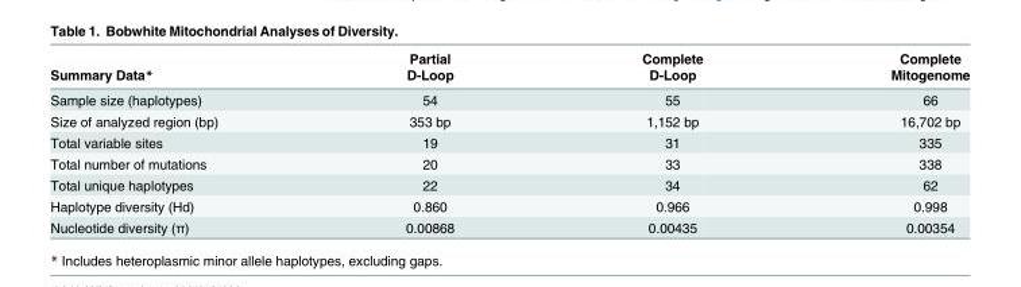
<table><thead><tr><td rowspan="2">Summary Data*</td><td rowspan="2">Partial D-Loop</td><td rowspan="2">Complete D-Loop</td><td rowspan="2">Complete Mitogenome</td></tr><tr></tr></thead><tbody><tr><td>Sample size (haplotypes)</td><td>54</td><td>55</td><td>66</td></tr><tr><td>Size of analyzed region (bp)</td><td>353 bp</td><td>1,152 bp</td><td>16,702 bp</td></tr><tr><td>Total variable sites</td><td>19</td><td>31</td><td>335</td></tr><tr><td>Total number of mutations</td><td>20</td><td>33</td><td>338</td></tr><tr><td>Total unique haplotypes</td><td>22</td><td>34</td><td>62</td></tr><tr><td>Haplotype diversity (Hd)</td><td>0.860</td><td>0.966</td><td>0.998</td></tr><tr><td>Nucleotide diversity (π)</td><td>0.00868</td><td>0.00435</td><td>0.00354</td></tr></tbody></table>